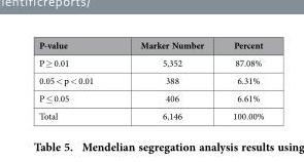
<table><thead><tr><td>P-value</td><td>Marker Number</td><td>Percent</td></tr></thead><tbody><tr><td>P ≥ 0.01</td><td>5,352</td><td>87.08%</td></tr><tr><td>0.05 &lt; p &lt; 0.01</td><td>388</td><td>6.31%</td></tr><tr><td>P ≤ 0.05</td><td>406</td><td>6.61%</td></tr><tr><td>Total</td><td>6,146</td><td>100.00%</td></tr></tbody></table>